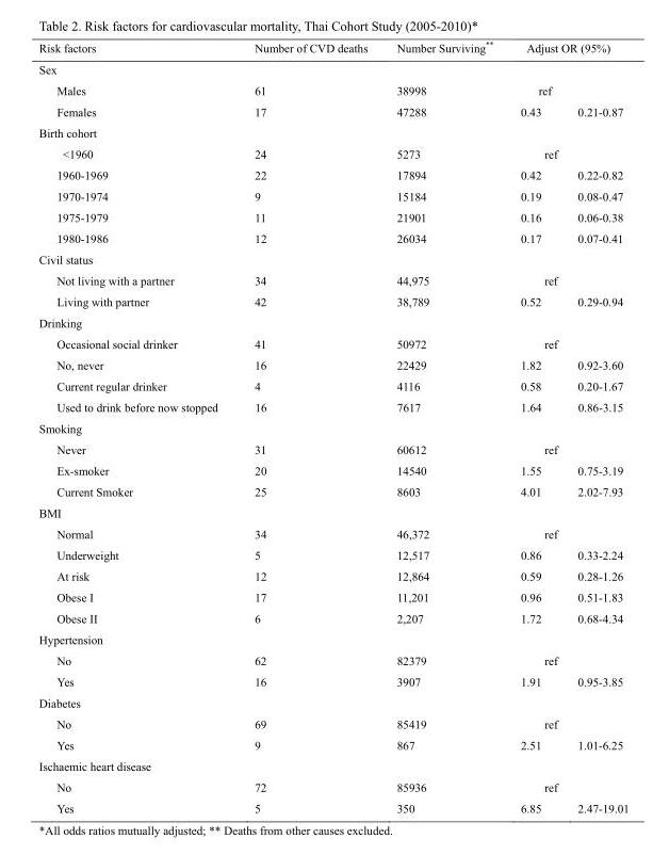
<table><thead><tr><td rowspan="2">Risk factors Sex</td><td rowspan="2">Number of CVD deaths</td><td rowspan="2">Number Surviving**</td><td colspan="2">Adjust OR (95%)</td></tr><tr><td></td><td></td></tr></thead><tbody><tr><td>Males</td><td>61</td><td>38998</td><td>ref</td><td></td></tr><tr><td>Females</td><td>17</td><td>47288</td><td>0.43</td><td>0.21-0.87</td></tr><tr><td colspan="5">Birth cohort</td></tr><tr><td>&lt;1960</td><td>24</td><td>5273</td><td>ref</td><td></td></tr><tr><td>1960-1969</td><td>22</td><td>17894</td><td>0.42</td><td>0.22-0.82</td></tr><tr><td>1970-1974</td><td>9</td><td>15184</td><td>0.19</td><td>0.08-0.47</td></tr><tr><td>1975-1979</td><td>11</td><td>21901</td><td>0.16</td><td>0.06-0.38</td></tr><tr><td>1980-1986</td><td>12</td><td>26034</td><td>0.17</td><td>0.07-0.41</td></tr><tr><td colspan="5">Civil status</td></tr><tr><td>Not living with a partner</td><td>34</td><td>44,975</td><td>ref</td><td></td></tr><tr><td>Living with partner</td><td>42</td><td>38,789</td><td>0.52</td><td>0.29-0.94</td></tr><tr><td colspan="5">Drinking</td></tr><tr><td>Occasional social drinker</td><td>41</td><td>50972</td><td>ref</td><td></td></tr><tr><td>No, never</td><td>16</td><td>22429</td><td>1.82</td><td>0.92-3.60</td></tr><tr><td>Current regular drinker</td><td>4</td><td>4116</td><td>0.58</td><td>0.20-1.67</td></tr><tr><td>Used to drink before now stopped</td><td>16</td><td>7617</td><td>1.64</td><td>0.86-3.15</td></tr><tr><td colspan="5">Smoking</td></tr><tr><td>Never</td><td>31</td><td>60612</td><td>ref</td><td></td></tr><tr><td>Ex-smoker</td><td>20</td><td>14540</td><td>1.55</td><td>0.75-3.19</td></tr><tr><td>Current Smoker</td><td>25</td><td>8603</td><td>4.01</td><td>2.02-7.93</td></tr><tr><td colspan="5">BMI</td></tr><tr><td>Normal</td><td>34</td><td>46,372</td><td>ref</td><td></td></tr><tr><td>Underweight</td><td>5</td><td>12,517</td><td>0.86</td><td>0.33-2.24</td></tr><tr><td>At risk</td><td>12</td><td>12,864</td><td>0.59</td><td>0.28-1.26</td></tr><tr><td>Obese I</td><td>17</td><td>11,201</td><td>0.96</td><td>0.51-1.83</td></tr><tr><td>Obese II</td><td>6</td><td>2,207</td><td>1.72</td><td>0.68-4.34</td></tr><tr><td colspan="5">Hypertension</td></tr><tr><td>No</td><td>62</td><td>82379</td><td>ref</td><td></td></tr><tr><td>Yes</td><td>16</td><td>3907</td><td>1.91</td><td>0.95-3.85</td></tr><tr><td colspan="5">Diabetes</td></tr><tr><td>No</td><td>69</td><td>85419</td><td>ref</td><td></td></tr><tr><td>Yes</td><td>9</td><td>867</td><td>2.51</td><td>1.01-6.25</td></tr><tr><td colspan="5">Ischaemic heart disease</td></tr><tr><td>No</td><td>72</td><td>85936</td><td>ref</td><td></td></tr><tr><td>Yes</td><td>5</td><td>350</td><td>6.85</td><td>2.47-19.01</td></tr></tbody></table>